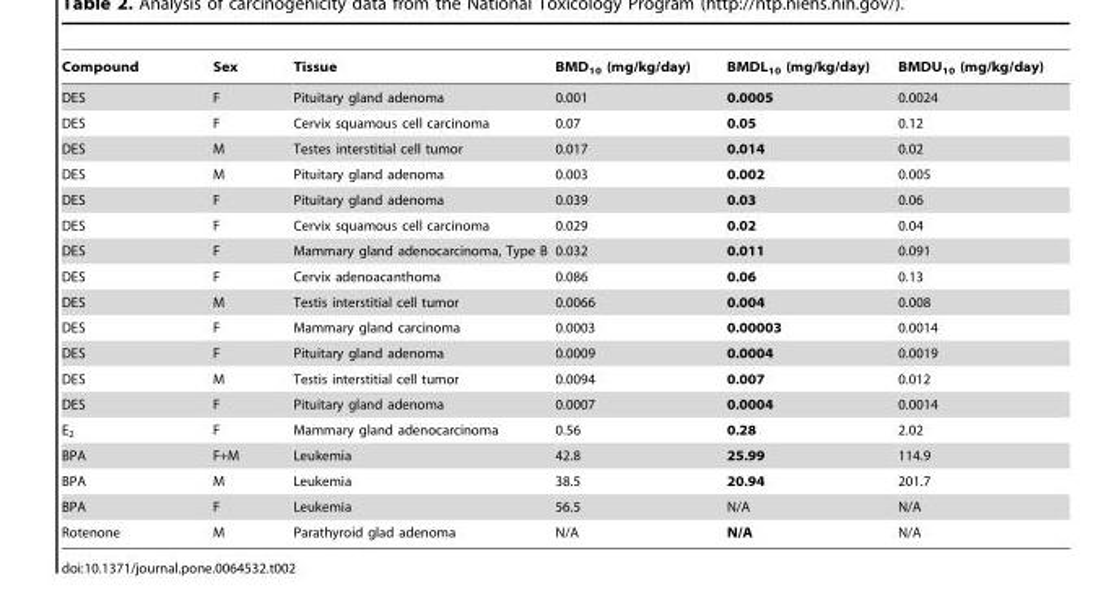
<table><thead><tr><td>Compound</td><td>Sex</td><td>Tissue</td><td>BMD<sub>10</sub> (mg/kg/day)</td><td>BMDL<sub>10</sub> (mg/kg/day)</td><td>BMDU<sub>10</sub> (mg/kg/day)</td></tr></thead><tbody><tr><td>DES</td><td>F</td><td>Pituitary gland adenoma</td><td>0.001</td><td>0.0005</td><td>0.0024</td></tr><tr><td>DES</td><td>F</td><td>Cervix squamous cell carcinoma</td><td>0.07</td><td>0.05</td><td>0.12</td></tr><tr><td>DES</td><td>M</td><td>Testes interstitial cell tumor</td><td>0.017</td><td>0.014</td><td>0.02</td></tr><tr><td>DES</td><td>M</td><td>Pituitary gland adenoma</td><td>0.003</td><td>0.002</td><td>0.005</td></tr><tr><td>DES</td><td>F</td><td>Pituitary gland adenoma</td><td>0.039</td><td>0.03</td><td>0.06</td></tr><tr><td>DES</td><td>F</td><td>Cervix squamous cell carcinoma</td><td>0.029</td><td>0.02</td><td>0.04</td></tr><tr><td>DES</td><td>F</td><td>Mammary gland adenocarcinoma, Type B</td><td>0.032</td><td>0.011</td><td>0.091</td></tr><tr><td>DES</td><td>F</td><td>Cervix adenoacanthoma</td><td>0.086</td><td>0.06</td><td>0.13</td></tr><tr><td>DES</td><td>M</td><td>Testis interstitial cell tumor</td><td>0.0066</td><td>0.004</td><td>0.008</td></tr><tr><td>DES</td><td>F</td><td>Mammary gland carcinoma</td><td>0.0003</td><td>0.00003</td><td>0.0014</td></tr><tr><td>DES</td><td>F</td><td>Pituitary gland adenoma</td><td>0.0009</td><td>0.0004</td><td>0.0019</td></tr><tr><td>DES</td><td>M</td><td>Testis interstitial cell tumor</td><td>0.0094</td><td>0.007</td><td>0.012</td></tr><tr><td>DES</td><td>F</td><td>Pituitary gland adenoma</td><td>0.0007</td><td>0.0004</td><td>0.0014</td></tr><tr><td>E<sub>2</sub></td><td>F</td><td>Mammary gland adenocarcinoma</td><td>0.56</td><td>0.28</td><td>2.02</td></tr><tr><td>BPA</td><td>F+M</td><td>Leukemia</td><td>42.8</td><td>25.99</td><td>114.9</td></tr><tr><td>BPA</td><td>M</td><td>Leukemia</td><td>38.5</td><td>20.94</td><td>201.7</td></tr><tr><td>BPA</td><td>F</td><td>Leukemia</td><td>56.5</td><td>N/A</td><td>N/A</td></tr><tr><td>Rotenone</td><td>M</td><td>Parathyroid glad adenoma</td><td>N/A</td><td>N/A</td><td>N/A</td></tr></tbody></table>